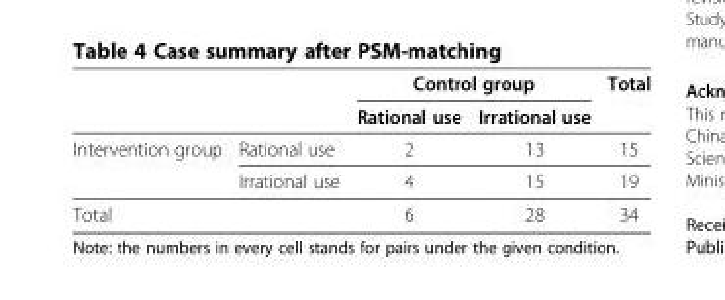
<table><thead><tr><td rowspan="2"></td><td rowspan="2"></td><td colspan="2">Control group</td><td rowspan="2">Total</td></tr><tr><td>Rational use</td><td>Irrational use</td></tr></thead><tbody><tr><td rowspan="2">Intervention group</td><td>Rational use</td><td>2</td><td>13</td><td>15</td></tr><tr><td>Irrational use</td><td>4</td><td>15</td><td>19</td></tr><tr><td colspan="2">Total</td><td>6</td><td>28</td><td>34</td></tr></tbody></table>